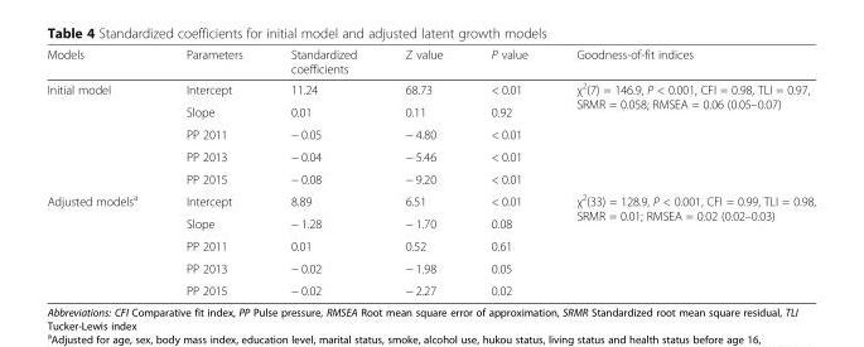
<table><thead><tr><td>Models</td><td>Parameters</td><td>Standardized coefficients</td><td>Z value</td><td>P value</td><td>Goodness-of-fit indices</td></tr></thead><tbody><tr><td rowspan="5">Initial model</td><td>Intercept</td><td>11.24</td><td>68.73</td><td>&lt; 0.01</td><td rowspan="5">χ<sup>2</sup>(7) = 146.9, P &lt; 0.001, CFI = 0.98, TLI = 0.97, SRMR = 0.058; RMSEA = 0.06 (0.05–0.07)</td></tr><tr><td>Slope</td><td>0.01</td><td>0.11</td><td>0.92</td></tr><tr><td>PP 2011</td><td>− 0.05</td><td>− 4.80</td><td>&lt; 0.01</td></tr><tr><td>PP 2013</td><td>− 0.04</td><td>− 5.46</td><td>&lt; 0.01</td></tr><tr><td>PP 2015</td><td>− 0.08</td><td>− 9.20</td><td>&lt; 0.01</td></tr><tr><td rowspan="5">Adjusted models<sup>a</sup></td><td>Intercept</td><td>8.89</td><td>6.51</td><td>&lt; 0.01</td><td rowspan="5">χ<sup>2</sup>(33) = 128.9, P &lt; 0.001, CFI = 0.99, TLI = 0.98, SRMR = 0.01; RMSEA = 0.02 (0.02–0.03)</td></tr><tr><td>Slope</td><td>− 1.28</td><td>− 1.70</td><td>0.08</td></tr><tr><td>PP 2011</td><td>0.01</td><td>0.52</td><td>0.61</td></tr><tr><td>PP 2013</td><td>− 0.02</td><td>− 1.98</td><td>0.05</td></tr><tr><td>PP 2015</td><td>− 0.02</td><td>− 2.27</td><td>0.02</td></tr></tbody></table>